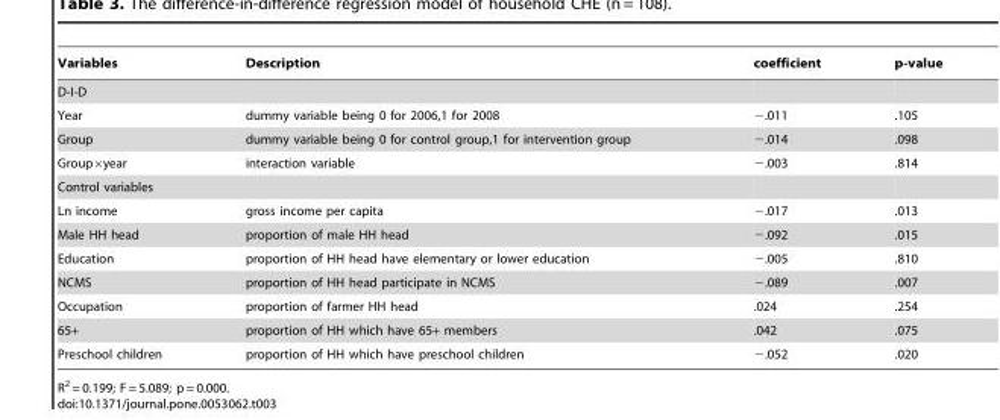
<table><thead><tr><td>Variables</td><td>Description</td><td>coefficient</td><td>p-value</td></tr></thead><tbody><tr><td colspan="4">D-I-D</td></tr><tr><td>Year</td><td>dummy variable being 0 for 2006,1 for 2008</td><td>−.011</td><td>.105</td></tr><tr><td>Group</td><td>dummy variable being 0 for control group,1 for intervention group</td><td>−.014</td><td>.098</td></tr><tr><td>Group×year</td><td>interaction variable</td><td>−.003</td><td>.814</td></tr><tr><td colspan="4">Control variables</td></tr><tr><td>Ln income</td><td>gross income per capita</td><td>−.017</td><td>.013</td></tr><tr><td>Male HH head</td><td>proportion of male HH head</td><td>−.092</td><td>.015</td></tr><tr><td>Education</td><td>proportion of HH head have elementary or lower education</td><td>−.005</td><td>.810</td></tr><tr><td>NCMS</td><td>proportion of HH head participate in NCMS</td><td>−.089</td><td>.007</td></tr><tr><td>Occupation</td><td>proportion of farmer HH head</td><td>.024</td><td>.254</td></tr><tr><td>65+</td><td>proportion of HH which have 65+ members</td><td>.042</td><td>.075</td></tr><tr><td>Preschool children</td><td>proportion of HH which have preschool children</td><td>−.052</td><td>.020</td></tr></tbody></table>